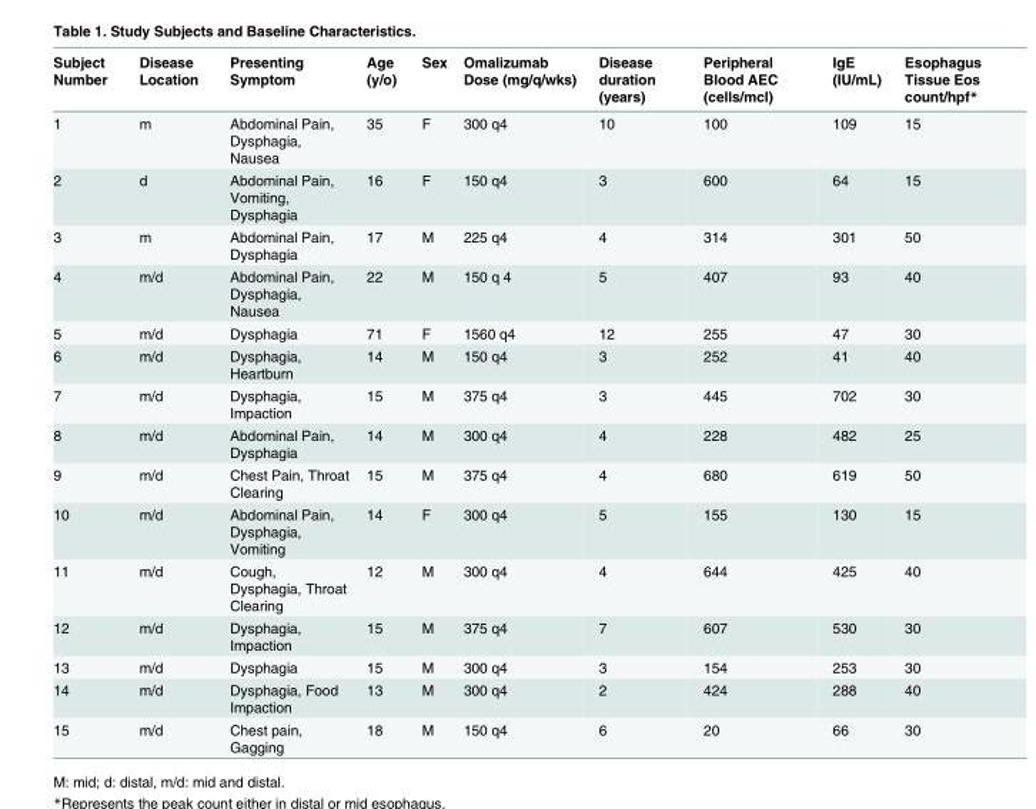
<table><thead><tr><td>Subject Number</td><td>Disease Location</td><td>Presenting Symptom</td><td>Age (y/o)</td><td>Sex</td><td>Omalizumab Dose (mg/q/wks)</td><td>Disease duration (years)</td><td>Peripheral Blood AEC (cells/mcl)</td><td>IgE (IU/mL)</td><td>Esophagus Tissue Eos count/hpf*</td></tr></thead><tbody><tr><td>1</td><td>m</td><td>Abdominal Pain, Dysphagia, Nausea</td><td>35</td><td>F</td><td>300 q4</td><td>10</td><td>100</td><td>109</td><td>15</td></tr><tr><td>2</td><td>d</td><td>Abdominal Pain, Vomiting, Dysphagia</td><td>16</td><td>F</td><td>150 q4</td><td>3</td><td>600</td><td>64</td><td>15</td></tr><tr><td>3</td><td>m</td><td>Abdominal Pain, Dysphagia</td><td>17</td><td>M</td><td>225 q4</td><td>4</td><td>314</td><td>301</td><td>50</td></tr><tr><td>4</td><td>m/d</td><td>Abdominal Pain, Dysphagia, Nausea</td><td>22</td><td>M</td><td>150 q 4</td><td>5</td><td>407</td><td>93</td><td>40</td></tr><tr><td>5</td><td>m/d</td><td>Dysphagia</td><td>71</td><td>F</td><td>1560 q4</td><td>12</td><td>255</td><td>47</td><td>30</td></tr><tr><td>6</td><td>m/d</td><td>Dysphagia, Heartburn</td><td>14</td><td>M</td><td>150 q4</td><td>3</td><td>252</td><td>41</td><td>40</td></tr><tr><td>7</td><td>m/d</td><td>Dysphagia, Impaction</td><td>15</td><td>M</td><td>375 q4</td><td>3</td><td>445</td><td>702</td><td>30</td></tr><tr><td>8</td><td>m/d</td><td>Abdominal Pain, Dysphagia</td><td>14</td><td>M</td><td>300 q4</td><td>4</td><td>228</td><td>482</td><td>25</td></tr><tr><td>9</td><td>m/d</td><td>Chest Pain, Throat Clearing</td><td>15</td><td>M</td><td>375 q4</td><td>4</td><td>680</td><td>619</td><td>50</td></tr><tr><td>10</td><td>m/d</td><td>Abdominal Pain, Dysphagia, Vomiting</td><td>14</td><td>F</td><td>300 q4</td><td>5</td><td>155</td><td>130</td><td>15</td></tr><tr><td>11</td><td>m/d</td><td>Cough, Dysphagia, Throat Clearing</td><td>12</td><td>M</td><td>300 q4</td><td>4</td><td>644</td><td>425</td><td>40</td></tr><tr><td>12</td><td>m/d</td><td>Dysphagia, Impaction</td><td>15</td><td>M</td><td>375 q4</td><td>7</td><td>607</td><td>530</td><td>30</td></tr><tr><td>13</td><td>m/d</td><td>Dysphagia</td><td>15</td><td>M</td><td>300 q4</td><td>3</td><td>154</td><td>253</td><td>30</td></tr><tr><td>14</td><td>m/d</td><td>Dysphagia, Food Impaction</td><td>13</td><td>M</td><td>300 q4</td><td>2</td><td>424</td><td>288</td><td>40</td></tr><tr><td>15</td><td>m/d</td><td>Chest pain, Gagging</td><td>18</td><td>M</td><td>150 q4</td><td>6</td><td>20</td><td>66</td><td>30</td></tr></tbody></table>